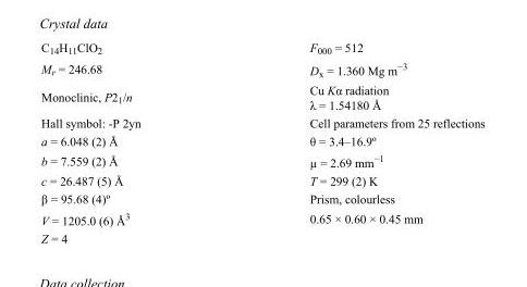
<table><tbody><tr><td>C<sub>14</sub>H<sub>11</sub>ClO<sub>2</sub></td><td>F<sub>000</sub> = 512</td></tr><tr><td>M<sub>r</sub> = 246.68</td><td>D<sub>x</sub> = 1.360 Mg m<sup>−3</sup></td></tr><tr><td>Monoclinic, P2<sub>1</sub>/n</td><td>Cu Kα radiation λ = 1.54180 Å</td></tr><tr><td>Hall symbol: -P 2yn</td><td>Cell parameters from 25 reflections</td></tr><tr><td>a = 6.048 (2) Å</td><td>θ = 3.4–16.9º</td></tr><tr><td>b = 7.559 (2) Å</td><td>µ = 2.69 mm<sup>−1</sup></td></tr><tr><td>c = 26.487 (5) Å</td><td>T = 299 (2) K</td></tr><tr><td>β = 95.68 (4)º</td><td>Prism, colourless</td></tr><tr><td>V = 1205.0 (6) Å<sup>3</sup></td><td>0.65 × 0.60 × 0.45 mm</td></tr><tr><td>Z = 4</td><td></td></tr></tbody></table>